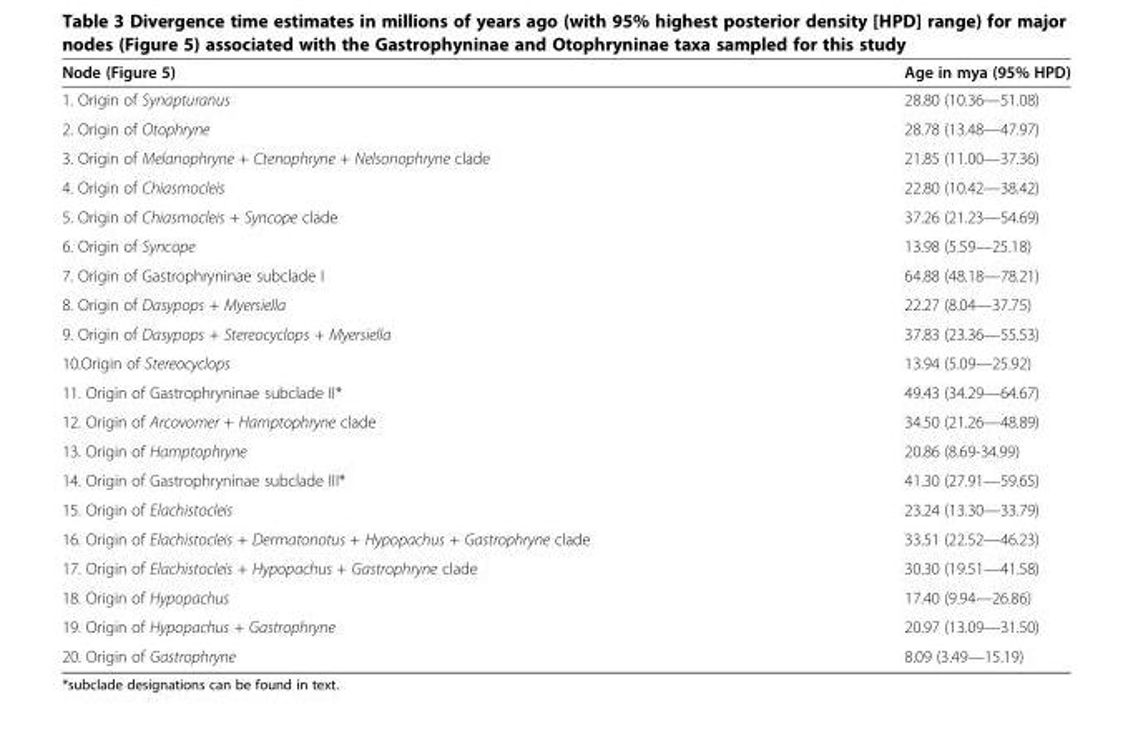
<table><thead><tr><td>Node (Figure 5)</td><td>Age in mya (95% HPD)</td></tr></thead><tbody><tr><td>1. Origin of Synapturanus</td><td>28.80 (10.36—51.08)</td></tr><tr><td>2. Origin of Otophryne</td><td>28.78 (13.48—47.97)</td></tr><tr><td>3. Origin of Melanophryne + Ctenophryne + Nelsonophryne clade</td><td>21.85 (11.00—37.36)</td></tr><tr><td>4. Origin of Chiasmocleis</td><td>22.80 (10.42—38.42)</td></tr><tr><td>5. Origin of Chiasmocleis + Syncope clade</td><td>37.26 (21.23—54.69)</td></tr><tr><td>6. Origin of Syncope</td><td>13.98 (5.59—25.18)</td></tr><tr><td>7. Origin of Gastrophryninae subclade I</td><td>64.88 (48.18—78.21)</td></tr><tr><td>8. Origin of Dasypops + Myersiella</td><td>22.27 (8.04—37.75)</td></tr><tr><td>9. Origin of Dasypops + Stereocyclops + Myersiella</td><td>37.83 (23.36—55.53)</td></tr><tr><td>10.Origin of Stereocyclops</td><td>13.94 (5.09—25.92)</td></tr><tr><td>11. Origin of Gastrophryninae subclade II*</td><td>49.43 (34.29—64.67)</td></tr><tr><td>12. Origin of Arcovomer + Hamptophryne clade</td><td>34.50 (21.26—48.89)</td></tr><tr><td>13. Origin of Hamptophryne</td><td>20.86 (8.69-34.99)</td></tr><tr><td>14. Origin of Gastrophryninae subclade III*</td><td>41.30 (27.91—59.65)</td></tr><tr><td>15. Origin of Elachistocleis</td><td>23.24 (13.30—33.79)</td></tr><tr><td>16. Origin of Elachistocleis + Dermatonotus + Hypopachus + Gastrophryne clade</td><td>33.51 (22.52—46.23)</td></tr><tr><td>17. Origin of Elachistocleis + Hypopachus + Gastrophryne clade</td><td>30.30 (19.51—41.58)</td></tr><tr><td>18. Origin of Hypopachus</td><td>17.40 (9.94—26.86)</td></tr><tr><td>19. Origin of Hypopachus + Gastrophryne</td><td>20.97 (13.09—31.50)</td></tr><tr><td>20. Origin of Gastrophryne</td><td>8.09 (3.49—15.19)</td></tr></tbody></table>